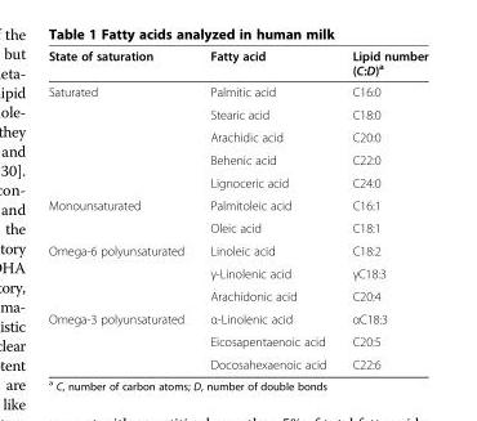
<table><thead><tr><td>State of saturation</td><td>Fatty acid</td><td>Lipid number (C:D)<sup>a</sup></td></tr></thead><tbody><tr><td rowspan="5">Saturated</td><td>Palmitic acid</td><td>C16:0</td></tr><tr><td>Stearic acid</td><td>C18:0</td></tr><tr><td>Arachidic acid</td><td>C20:0</td></tr><tr><td>Behenic acid</td><td>C22:0</td></tr><tr><td>Lignoceric acid</td><td>C24:0</td></tr><tr><td rowspan="2">Monounsaturated</td><td>Palmitoleic acid</td><td>C16:1</td></tr><tr><td>Oleic acid</td><td>C18:1</td></tr><tr><td rowspan="3">Omega-6 polyunsaturated</td><td>Linoleic acid</td><td>C18:2</td></tr><tr><td>γ-Linolenic acid</td><td>γC18:3</td></tr><tr><td>Arachidonic acid</td><td>C20:4</td></tr><tr><td rowspan="3">Omega-3 polyunsaturated</td><td>α-Linolenic acid</td><td>αC18:3</td></tr><tr><td>Eicosapentaenoic acid</td><td>C20:5</td></tr><tr><td>Docosahexaenoic acid</td><td>C22:6</td></tr></tbody></table>